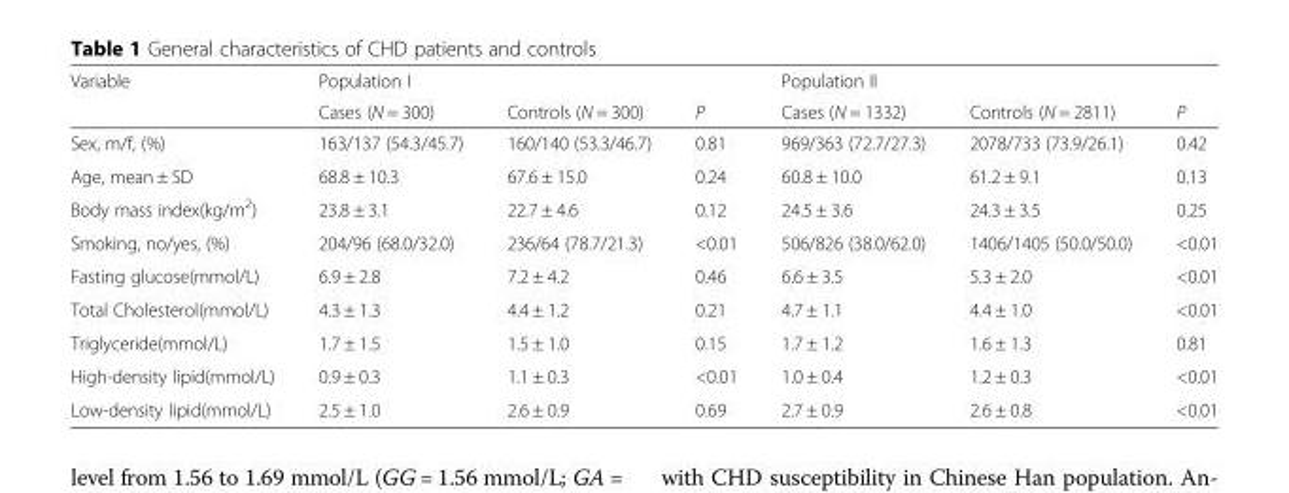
<table><thead><tr><td rowspan="2">Variable</td><td colspan="3">Population I</td><td colspan="3">Population II</td></tr><tr><td>Cases (N = 300)</td><td>Controls (N = 300)</td><td>P</td><td>Cases (N = 1332)</td><td>Controls (N = 2811)</td><td>P</td></tr></thead><tbody><tr><td>Sex, m/f, (%)</td><td>163/137 (54.3/45.7)</td><td>160/140 (53.3/46.7)</td><td>0.81</td><td>969/363 (72.7/27.3)</td><td>2078/733 (73.9/26.1)</td><td>0.42</td></tr><tr><td>Age, mean ± SD</td><td>68.8 ± 10.3</td><td>67.6 ± 15.0</td><td>0.24</td><td>60.8 ± 10.0</td><td>61.2 ± 9.1</td><td>0.13</td></tr><tr><td>Body mass index(kg/m<sup>2</sup>)</td><td>23.8 ± 3.1</td><td>22.7 ± 4.6</td><td>0.12</td><td>24.5 ± 3.6</td><td>24.3 ± 3.5</td><td>0.25</td></tr><tr><td>Smoking, no/yes, (%)</td><td>204/96 (68.0/32.0)</td><td>236/64 (78.7/21.3)</td><td>&lt;0.01</td><td>506/826 (38.0/62.0)</td><td>1406/1405 (50.0/50.0)</td><td>&lt;0.01</td></tr><tr><td>Fasting glucose(mmol/L)</td><td>6.9 ± 2.8</td><td>7.2 ± 4.2</td><td>0.46</td><td>6.6 ± 3.5</td><td>5.3 ± 2.0</td><td>&lt;0.01</td></tr><tr><td>Total Cholesterol(mmol/L)</td><td>4.3 ± 1.3</td><td>4.4 ± 1.2</td><td>0.21</td><td>4.7 ± 1.1</td><td>4.4 ± 1.0</td><td>&lt;0.01</td></tr><tr><td>Triglyceride(mmol/L)</td><td>1.7 ± 1.5</td><td>1.5 ± 1.0</td><td>0.15</td><td>1.7 ± 1.2</td><td>1.6 ± 1.3</td><td>0.81</td></tr><tr><td>High-density lipid(mmol/L)</td><td>0.9 ± 0.3</td><td>1.1 ± 0.3</td><td>&lt;0.01</td><td>1.0 ± 0.4</td><td>1.2 ± 0.3</td><td>&lt;0.01</td></tr><tr><td>Low-density lipid(mmol/L)</td><td>2.5 ± 1.0</td><td>2.6 ± 0.9</td><td>0.69</td><td>2.7 ± 0.9</td><td>2.6 ± 0.8</td><td>&lt;0.01</td></tr></tbody></table>